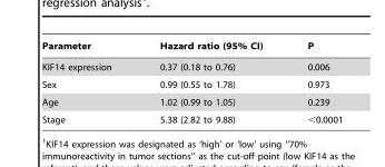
<table><thead><tr><td>Parameter</td><td>Hazard ratio (95% CI)</td><td>P</td></tr></thead><tbody><tr><td>KIF14 expression</td><td>0.37 (0.18 to 0.76)</td><td>0.006</td></tr><tr><td>Sex</td><td>0.99 (0.55 to 1.78)</td><td>0.973</td></tr><tr><td>Age</td><td>1.02 (0.99 to 1.05)</td><td>0.239</td></tr><tr><td>Stage</td><td>5.38 (2.82 to 9.88)</td><td>&lt;0.0001</td></tr></tbody></table>